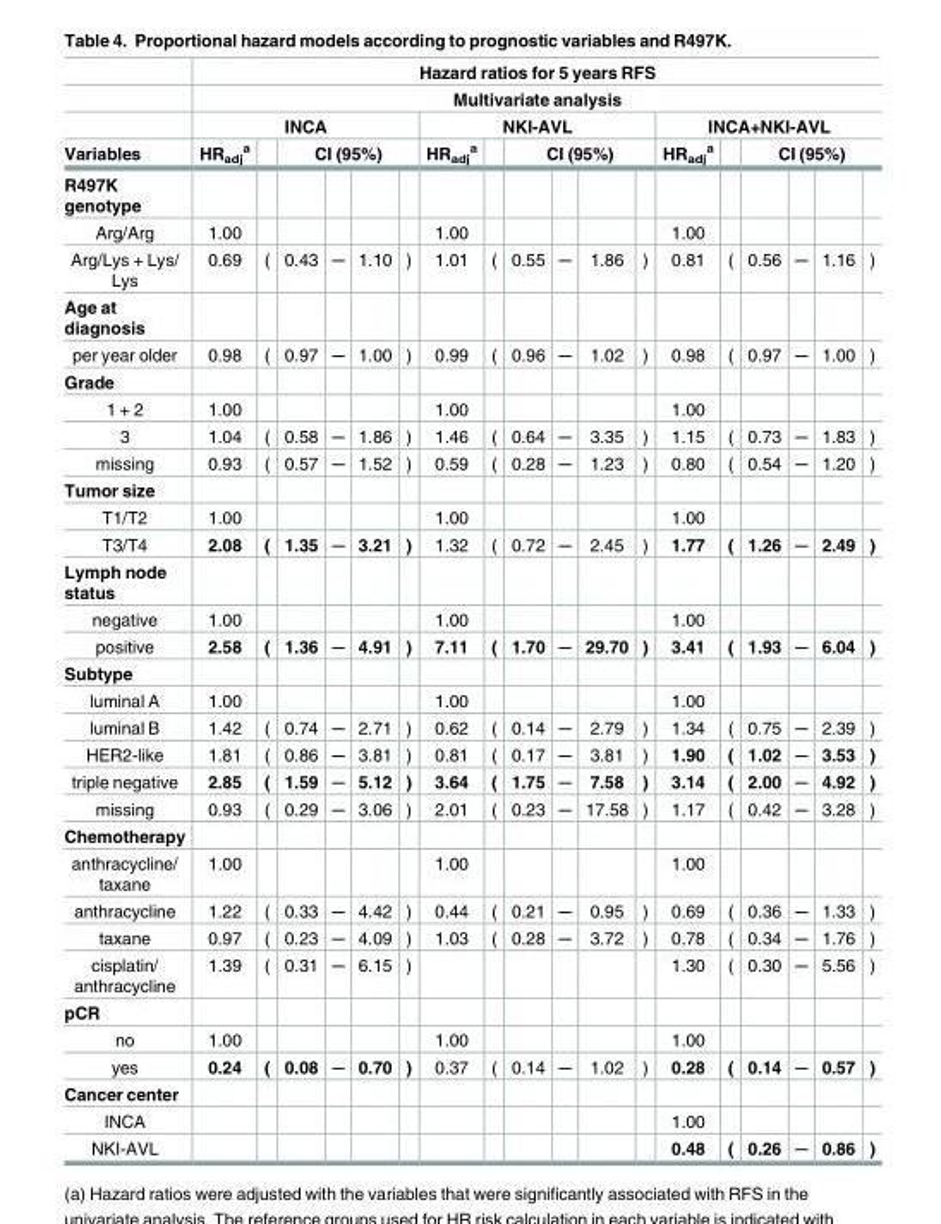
<table><thead><tr><td rowspan="5">Variables R497K genotype</td><td rowspan="2" colspan="18">Hazard ratios for 5 years RFS Multivariate analysis</td></tr><tr></tr><tr><td colspan="6">INCA</td><td colspan="6">NKI-AVL</td><td colspan="6">INCA+NKI-AVL</td></tr><tr><td rowspan="2">HR<sub>adj</sub> <sup>a</sup></td><td rowspan="2"></td><td colspan="4">CI (95%)</td><td rowspan="2">HR<sub>adj</sub> <sup>a</sup></td><td rowspan="2"></td><td colspan="4">CI (95%)</td><td rowspan="2">HR<sub>adj</sub> <sup>a</sup></td><td rowspan="2"></td><td colspan="4">CI (95%)</td></tr><tr><td></td><td></td><td></td><td></td><td></td><td></td><td></td><td></td><td></td><td></td><td></td><td></td></tr></thead><tbody><tr><td>Arg/Arg</td><td>1.00</td><td></td><td></td><td></td><td></td><td></td><td>1.00</td><td></td><td></td><td></td><td></td><td></td><td>1.00</td><td></td><td></td><td></td><td></td><td></td></tr><tr><td>Arg/Lys + Lys/ Lys</td><td>0.69</td><td>(</td><td>0.43</td><td>─</td><td>1.10</td><td>)</td><td>1.01</td><td>(</td><td>0.55</td><td>─</td><td>1.86</td><td>)</td><td>0.81</td><td>(</td><td>0.56</td><td>─</td><td>1.16</td><td>)</td></tr><tr><td colspan="19">Age at diagnosis</td></tr><tr><td>per year older</td><td>0.98</td><td>(</td><td>0.97</td><td>─</td><td>1.00</td><td>)</td><td>0.99</td><td>(</td><td>0.96</td><td>─</td><td>1.02</td><td>)</td><td>0.98</td><td>(</td><td>0.97</td><td>─</td><td>1.00</td><td>)</td></tr><tr><td colspan="19">Grade</td></tr><tr><td>1 + 2</td><td>1.00</td><td></td><td></td><td></td><td></td><td></td><td>1.00</td><td></td><td></td><td></td><td></td><td></td><td>1.00</td><td></td><td></td><td></td><td></td><td></td></tr><tr><td>3</td><td>1.04</td><td>(</td><td>0.58</td><td>─</td><td>1.86</td><td>)</td><td>1.46</td><td>(</td><td>0.64</td><td>─</td><td>3.35</td><td>)</td><td>1.15</td><td>(</td><td>0.73</td><td>─</td><td>1.83</td><td>)</td></tr><tr><td>missing</td><td>0.93</td><td>(</td><td>0.57</td><td>─</td><td>1.52</td><td>)</td><td>0.59</td><td>(</td><td>0.28</td><td>─</td><td>1.23</td><td>)</td><td>0.80</td><td>(</td><td>0.54</td><td>─</td><td>1.20</td><td>)</td></tr><tr><td colspan="19">Tumor size</td></tr><tr><td>T1/T2</td><td>1.00</td><td></td><td></td><td></td><td></td><td></td><td>1.00</td><td></td><td></td><td></td><td></td><td></td><td>1.00</td><td></td><td></td><td></td><td></td><td></td></tr><tr><td>T3/T4</td><td>2.08</td><td>(</td><td>1.35</td><td>─</td><td>3.21</td><td>)</td><td>1.32</td><td>(</td><td>0.72</td><td>─</td><td>2.45</td><td>)</td><td>1.77</td><td>(</td><td>1.26</td><td>─</td><td>2.49</td><td>)</td></tr><tr><td colspan="19">Lymph node status</td></tr><tr><td>negative</td><td>1.00</td><td></td><td></td><td></td><td></td><td></td><td>1.00</td><td></td><td></td><td></td><td></td><td></td><td>1.00</td><td></td><td></td><td></td><td></td><td></td></tr><tr><td>positive</td><td>2.58</td><td>(</td><td>1.36</td><td>─</td><td>4.91</td><td>)</td><td>7.11</td><td>(</td><td>1.70</td><td>─</td><td>29.70</td><td>)</td><td>3.41</td><td>(</td><td>1.93</td><td>─</td><td>6.04</td><td>)</td></tr><tr><td colspan="19">Subtype</td></tr><tr><td>luminal A</td><td>1.00</td><td></td><td></td><td></td><td></td><td></td><td>1.00</td><td></td><td></td><td></td><td></td><td></td><td>1.00</td><td></td><td></td><td></td><td></td><td></td></tr><tr><td>luminal B</td><td>1.42</td><td>(</td><td>0.74</td><td>─</td><td>2.71</td><td>)</td><td>0.62</td><td>(</td><td>0.14</td><td>─</td><td>2.79</td><td>)</td><td>1.34</td><td>(</td><td>0.75</td><td>─</td><td>2.39</td><td>)</td></tr><tr><td>HER2-like</td><td>1.81</td><td>(</td><td>0.86</td><td>─</td><td>3.81</td><td>)</td><td>0.81</td><td>(</td><td>0.17</td><td>─</td><td>3.81</td><td>)</td><td>1.90</td><td>(</td><td>1.02</td><td>─</td><td>3.53</td><td>)</td></tr><tr><td>triple negative</td><td>2.85</td><td>(</td><td>1.59</td><td>─</td><td>5.12</td><td>)</td><td>3.64</td><td>(</td><td>1.75</td><td>─</td><td>7.58</td><td>)</td><td>3.14</td><td>(</td><td>2.00</td><td>─</td><td>4.92</td><td>)</td></tr><tr><td>missing</td><td>0.93</td><td>(</td><td>0.29</td><td>─</td><td>3.06</td><td>)</td><td>2.01</td><td>(</td><td>0.23</td><td>─</td><td>17.58</td><td>)</td><td>1.17</td><td>(</td><td>0.42</td><td>─</td><td>3.28</td><td>)</td></tr><tr><td colspan="19">Chemotherapy</td></tr><tr><td>anthracycline/ taxane</td><td>1.00</td><td></td><td></td><td></td><td></td><td></td><td>1.00</td><td></td><td></td><td></td><td></td><td></td><td>1.00</td><td></td><td></td><td></td><td></td><td></td></tr><tr><td>anthracycline</td><td>1.22</td><td>(</td><td>0.33</td><td>─</td><td>4.42</td><td>)</td><td>0.44</td><td>(</td><td>0.21</td><td>─</td><td>0.95</td><td>)</td><td>0.69</td><td>(</td><td>0.36</td><td>─</td><td>1.33</td><td>)</td></tr><tr><td>taxane</td><td>0.97</td><td>(</td><td>0.23</td><td>─</td><td>4.09</td><td>)</td><td>1.03</td><td>(</td><td>0.28</td><td>─</td><td>3.72</td><td>)</td><td>0.78</td><td>(</td><td>0.34</td><td>─</td><td>1.76</td><td>)</td></tr><tr><td>cisplatin/ anthracycline</td><td>1.39</td><td>(</td><td>0.31</td><td>─</td><td>6.15</td><td>)</td><td></td><td></td><td></td><td></td><td></td><td></td><td>1.30</td><td>(</td><td>0.30</td><td>─</td><td>5.56</td><td>)</td></tr><tr><td colspan="19">pCR</td></tr><tr><td>no</td><td>1.00</td><td></td><td></td><td></td><td></td><td></td><td>1.00</td><td></td><td></td><td></td><td></td><td></td><td>1.00</td><td></td><td></td><td></td><td></td><td></td></tr><tr><td>yes</td><td>0.24</td><td>(</td><td>0.08</td><td>─</td><td>0.70</td><td>)</td><td>0.37</td><td>(</td><td>0.14</td><td>─</td><td>1.02</td><td>)</td><td>0.28</td><td>(</td><td>0.14</td><td>─</td><td>0.57</td><td>)</td></tr><tr><td colspan="19">Cancer center</td></tr><tr><td>INCA</td><td></td><td></td><td></td><td></td><td></td><td></td><td></td><td></td><td></td><td></td><td></td><td></td><td>1.00</td><td></td><td></td><td></td><td></td><td></td></tr><tr><td>NKI-AVL</td><td></td><td></td><td></td><td></td><td></td><td></td><td></td><td></td><td></td><td></td><td></td><td></td><td>0.48</td><td>(</td><td>0.26</td><td>─</td><td>0.86</td><td>)</td></tr></tbody></table>